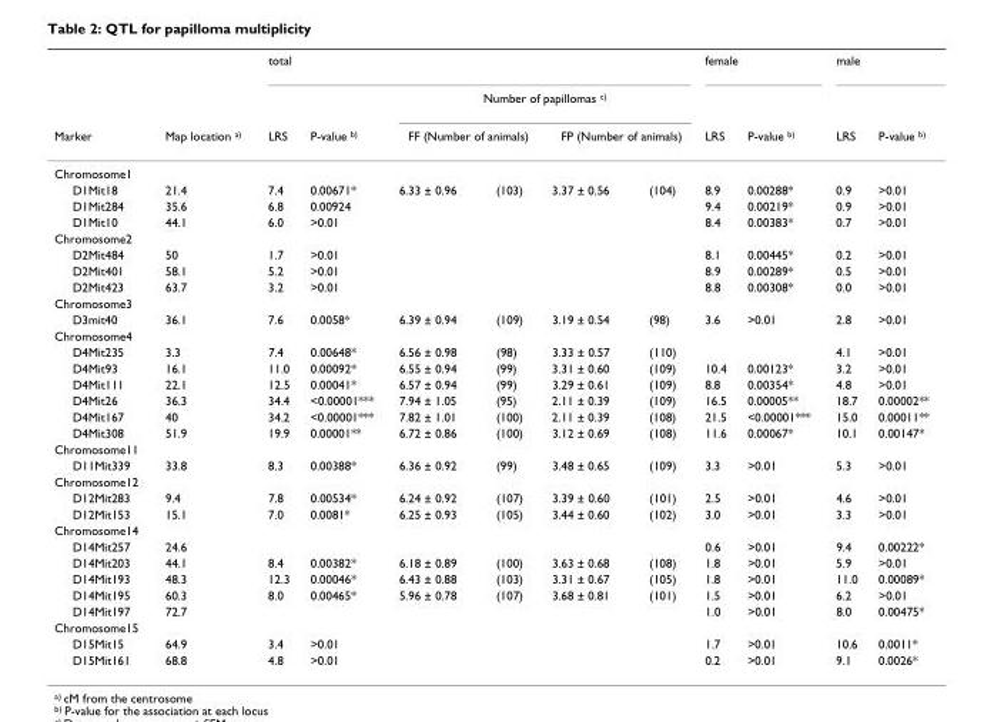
<table><thead><tr><td rowspan="4">Marker Chromosome1</td><td rowspan="4">Map location <sup>a)</sup></td><td colspan="6">total</td><td colspan="2">female</td><td colspan="2">male</td></tr><tr><td rowspan="3">LRS</td><td rowspan="3">P-value <sup>b)</sup></td><td colspan="4">Number of papillomas <sup>c)</sup></td><td rowspan="3">LRS</td><td rowspan="3">P-value <sup>b)</sup></td><td rowspan="3">LRS</td><td rowspan="3">P-value <sup>b)</sup></td></tr><tr><td colspan="2">FF (Number of animals)</td><td colspan="2">FP (Number of animals)</td></tr><tr><td></td><td></td><td></td><td></td></tr></thead><tbody><tr><td>D1Mit18</td><td>21.4</td><td>7.4</td><td>0.00671*</td><td>6.33 ± 0.96</td><td>(103)</td><td>3.37 ± 0.56</td><td>(104)</td><td>8.9</td><td>0.00288*</td><td>0.9</td><td>&gt;0.01</td></tr><tr><td>D1Mit284</td><td>35.6</td><td>6.8</td><td>0.00924</td><td></td><td></td><td></td><td></td><td>9.4</td><td>0.00219*</td><td>0.9</td><td>&gt;0.01</td></tr><tr><td>D1Mit10</td><td>44.1</td><td>6.0</td><td>&gt;0.01</td><td></td><td></td><td></td><td></td><td>8.4</td><td>0.00383*</td><td>0.7</td><td>&gt;0.01</td></tr><tr><td colspan="12">Chromosome2</td></tr><tr><td>D2Mit484</td><td>50</td><td>1.7</td><td>&gt;0.01</td><td></td><td></td><td></td><td></td><td>8.1</td><td>0.00445*</td><td>0.2</td><td>&gt;0.01</td></tr><tr><td>D2Mit401</td><td>58.1</td><td>5.2</td><td>&gt;0.01</td><td></td><td></td><td></td><td></td><td>8.9</td><td>0.00289*</td><td>0.5</td><td>&gt;0.01</td></tr><tr><td>D2Mit423</td><td>63.7</td><td>3.2</td><td>&gt;0.01</td><td></td><td></td><td></td><td></td><td>8.8</td><td>0.00308*</td><td>0.0</td><td>&gt;0.01</td></tr><tr><td colspan="12">Chromosome3</td></tr><tr><td>D3mit40</td><td>36.1</td><td>7.6</td><td>0.0058*</td><td>6.39 ± 0.94</td><td>(109)</td><td>3.19 ± 0.54</td><td>(98)</td><td>3.6</td><td>&gt;0.01</td><td>2.8</td><td>&gt;0.01</td></tr><tr><td colspan="12">Chromosome4</td></tr><tr><td>D4Mit235</td><td>3.3</td><td>7.4</td><td>0.00648*</td><td>6.56 ± 0.98</td><td>(98)</td><td>3.33 ± 0.57</td><td>(110)</td><td></td><td></td><td>4.1</td><td>&gt;0.01</td></tr><tr><td>D4Mit93</td><td>16.1</td><td>11.0</td><td>0.00092*</td><td>6.55 ± 0.94</td><td>(99)</td><td>3.31 ± 0.60</td><td>(109)</td><td>10.4</td><td>0.00123*</td><td>3.2</td><td>&gt;0.01</td></tr><tr><td>D4Mit111</td><td>22.1</td><td>12.5</td><td>0.00041*</td><td>6.57 ± 0.94</td><td>(99)</td><td>3.29 ± 0.61</td><td>(109)</td><td>8.8</td><td>0.00354*</td><td>4.8</td><td>&gt;0.01</td></tr><tr><td>D4Mit26</td><td>36.3</td><td>34.4</td><td>&lt;0.00001***</td><td>7.94 ± 1.05</td><td>(95)</td><td>2.11 ± 0.39</td><td>(109)</td><td>16.5</td><td>0.00005**</td><td>18.7</td><td>0.00002**</td></tr><tr><td>D4Mit167</td><td>40</td><td>34.2</td><td>&lt;0.00001***</td><td>7.82 ± 1.01</td><td>(100)</td><td>2.11 ± 0.39</td><td>(108)</td><td>21.5</td><td>&lt;0.00001***</td><td>15.0</td><td>0.00011**</td></tr><tr><td>D4Mit308</td><td>51.9</td><td>19.9</td><td>0.00001**</td><td>6.72 ± 0.86</td><td>(100)</td><td>3.12 ± 0.69</td><td>(108)</td><td>11.6</td><td>0.00067*</td><td>10.1</td><td>0.00147*</td></tr><tr><td colspan="12">Chromosome11</td></tr><tr><td>D11Mit339</td><td>33.8</td><td>8.3</td><td>0.00388*</td><td>6.36 ± 0.92</td><td>(99)</td><td>3.48 ± 0.65</td><td>(109)</td><td>3.3</td><td>&gt;0.01</td><td>5.3</td><td>&gt;0.01</td></tr><tr><td colspan="12">Chromosome12</td></tr><tr><td>D12Mit283</td><td>9.4</td><td>7.8</td><td>0.00534*</td><td>6.24 ± 0.92</td><td>(107)</td><td>3.39 ± 0.60</td><td>(101)</td><td>2.5</td><td>&gt;0.01</td><td>4.6</td><td>&gt;0.01</td></tr><tr><td>D12Mit153</td><td>15.1</td><td>7.0</td><td>0.0081*</td><td>6.25 ± 0.93</td><td>(105)</td><td>3.44 ± 0.60</td><td>(102)</td><td>3.0</td><td>&gt;0.01</td><td>3.3</td><td>&gt;0.01</td></tr><tr><td colspan="12">Chromosome14</td></tr><tr><td>D14Mit257</td><td>24.6</td><td></td><td></td><td></td><td></td><td></td><td></td><td>0.6</td><td>&gt;0.01</td><td>9.4</td><td>0.00222*</td></tr><tr><td>D14Mit203</td><td>44.1</td><td>8.4</td><td>0.00382*</td><td>6.18 ± 0.89</td><td>(100)</td><td>3.63 ± 0.68</td><td>(108)</td><td>1.8</td><td>&gt;0.01</td><td>5.9</td><td>&gt;0.01</td></tr><tr><td>D14Mit193</td><td>48.3</td><td>12.3</td><td>0.00046*</td><td>6.43 ± 0.88</td><td>(103)</td><td>3.31 ± 0.67</td><td>(105)</td><td>1.8</td><td>&gt;0.01</td><td>11.0</td><td>0.00089*</td></tr><tr><td>D14Mit195</td><td>60.3</td><td>8.0</td><td>0.00465*</td><td>5.96 ± 0.78</td><td>(107)</td><td>3.68 ± 0.81</td><td>(101)</td><td>1.5</td><td>&gt;0.01</td><td>6.2</td><td>&gt;0.01</td></tr><tr><td>D14Mit197</td><td>72.7</td><td></td><td></td><td></td><td></td><td></td><td></td><td>1.0</td><td>&gt;0.01</td><td>8.0</td><td>0.00475*</td></tr><tr><td colspan="12">Chromosome15</td></tr><tr><td>D15Mit15</td><td>64.9</td><td>3.4</td><td>&gt;0.01</td><td></td><td></td><td></td><td></td><td>1.7</td><td>&gt;0.01</td><td>10.6</td><td>0.0011*</td></tr><tr><td>D15Mit161</td><td>68.8</td><td>4.8</td><td>&gt;0.01</td><td></td><td></td><td></td><td></td><td>0.2</td><td>&gt;0.01</td><td>9.1</td><td>0.0026*</td></tr></tbody></table>